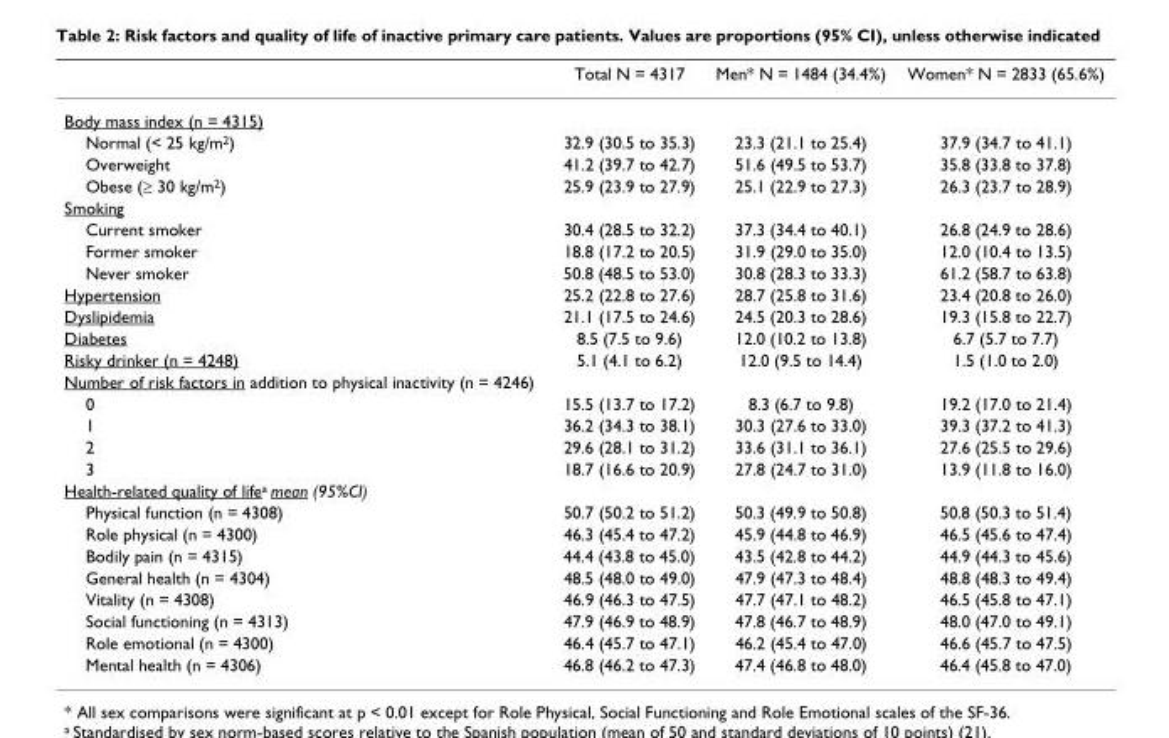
<table><thead><tr><td></td><td>Total N = 4317</td><td>Men* N = 1484 (34.4%)</td><td>Women* N = 2833 (65.6%)</td></tr></thead><tbody><tr><td colspan="4">Body mass index (n = 4315)</td></tr><tr><td>Normal (&lt; 25 kg/m<sup>2</sup>)</td><td>32.9 (30.5 to 35.3)</td><td>23.3 (21.1 to 25.4)</td><td>37.9 (34.7 to 41.1)</td></tr><tr><td>Overweight</td><td>41.2 (39.7 to 42.7)</td><td>51.6 (49.5 to 53.7)</td><td>35.8 (33.8 to 37.8)</td></tr><tr><td>Obese (≥ 30 kg/m<sup>2</sup>)</td><td>25.9 (23.9 to 27.9)</td><td>25.1 (22.9 to 27.3)</td><td>26.3 (23.7 to 28.9)</td></tr><tr><td colspan="4">Smoking</td></tr><tr><td>Current smoker</td><td>30.4 (28.5 to 32.2)</td><td>37.3 (34.4 to 40.1)</td><td>26.8 (24.9 to 28.6)</td></tr><tr><td>Former smoker</td><td>18.8 (17.2 to 20.5)</td><td>31.9 (29.0 to 35.0)</td><td>12.0 (10.4 to 13.5)</td></tr><tr><td>Never smoker</td><td>50.8 (48.5 to 53.0)</td><td>30.8 (28.3 to 33.3)</td><td>61.2 (58.7 to 63.8)</td></tr><tr><td>Hypertension</td><td>25.2 (22.8 to 27.6)</td><td>28.7 (25.8 to 31.6)</td><td>23.4 (20.8 to 26.0)</td></tr><tr><td>Dyslipidemia</td><td>21.1 (17.5 to 24.6)</td><td>24.5 (20.3 to 28.6)</td><td>19.3 (15.8 to 22.7)</td></tr><tr><td>Diabetes</td><td>8.5 (7.5 to 9.6)</td><td>12.0 (10.2 to 13.8)</td><td>6.7 (5.7 to 7.7)</td></tr><tr><td>Risky drinker (n = 4248)</td><td>5.1 (4.1 to 6.2)</td><td>12.0 (9.5 to 14.4)</td><td>1.5 (1.0 to 2.0)</td></tr><tr><td colspan="4">Number of risk factors in addition to physical inactivity (n = 4246)</td></tr><tr><td>0</td><td>15.5 (13.7 to 17.2)</td><td>8.3 (6.7 to 9.8)</td><td>19.2 (17.0 to 21.4)</td></tr><tr><td>1</td><td>36.2 (34.3 to 38.1)</td><td>30.3 (27.6 to 33.0)</td><td>39.3 (37.2 to 41.3)</td></tr><tr><td>2</td><td>29.6 (28.1 to 31.2)</td><td>33.6 (31.1 to 36.1)</td><td>27.6 (25.5 to 29.6)</td></tr><tr><td>3</td><td>18.7 (16.6 to 20.9)</td><td>27.8 (24.7 to 31.0)</td><td>13.9 (11.8 to 16.0)</td></tr><tr><td colspan="4">Health-related quality of life<sup>a</sup> mean (95%CI)</td></tr><tr><td>Physical function (n = 4308)</td><td>50.7 (50.2 to 51.2)</td><td>50.3 (49.9 to 50.8)</td><td>50.8 (50.3 to 51.4)</td></tr><tr><td>Role physical (n = 4300)</td><td>46.3 (45.4 to 47.2)</td><td>45.9 (44.8 to 46.9)</td><td>46.5 (45.6 to 47.4)</td></tr><tr><td>Bodily pain (n = 4315)</td><td>44.4 (43.8 to 45.0)</td><td>43.5 (42.8 to 44.2)</td><td>44.9 (44.3 to 45.6)</td></tr><tr><td>General health (n = 4304)</td><td>48.5 (48.0 to 49.0)</td><td>47.9 (47.3 to 48.4)</td><td>48.8 (48.3 to 49.4)</td></tr><tr><td>Vitality (n = 4308)</td><td>46.9 (46.3 to 47.5)</td><td>47.7 (47.1 to 48.2)</td><td>46.5 (45.8 to 47.1)</td></tr><tr><td>Social functioning (n = 4313)</td><td>47.9 (46.9 to 48.9)</td><td>47.8 (46.7 to 48.9)</td><td>48.0 (47.0 to 49.1)</td></tr><tr><td>Role emotional (n = 4300)</td><td>46.4 (45.7 to 47.1)</td><td>46.2 (45.4 to 47.0)</td><td>46.6 (45.7 to 47.5)</td></tr><tr><td>Mental health (n = 4306)</td><td>46.8 (46.2 to 47.3)</td><td>47.4 (46.8 to 48.0)</td><td>46.4 (45.8 to 47.0)</td></tr></tbody></table>